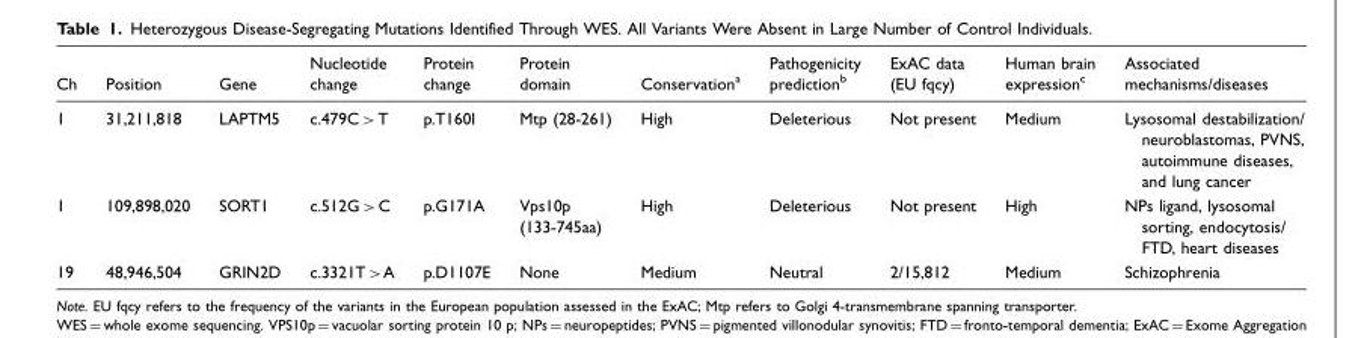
<table><thead><tr><td>Ch</td><td>Position</td><td>Gene</td><td>Nucleotide change</td><td>Protein change</td><td>Protein domain</td><td>Conservation<sup>a</sup></td><td>Pathogenicity prediction<sup>b</sup></td><td>ExAC data (EU fqcy)</td><td>Human brain expression<sup>c</sup></td><td>Associated mechanisms/diseases</td></tr></thead><tbody><tr><td>1</td><td>31,211,818</td><td>LAPTM5</td><td>c.479C &gt; T</td><td>p.T160I</td><td>Mtp (28-261)</td><td>High</td><td>Deleterious</td><td>Not present</td><td>Medium</td><td>Lysosomal destabilization/ neuroblastomas, PVNS, autoimmune diseases, and lung cancer</td></tr><tr><td>1</td><td>109,898,020</td><td>SORT1</td><td>c.512G &gt; C</td><td>p.G171A</td><td>Vps10p (133-745aa)</td><td>High</td><td>Deleterious</td><td>Not present</td><td>High</td><td>NPs ligand, lysosomal sorting, endocytosis/ FTD, heart diseases</td></tr><tr><td>19</td><td>48,946,504</td><td>GRIN2D</td><td>c.3321T &gt;A</td><td>p.D1107E</td><td>None</td><td>Medium</td><td>Neutral</td><td>2/15,812</td><td>Medium</td><td>Schizophrenia</td></tr></tbody></table>